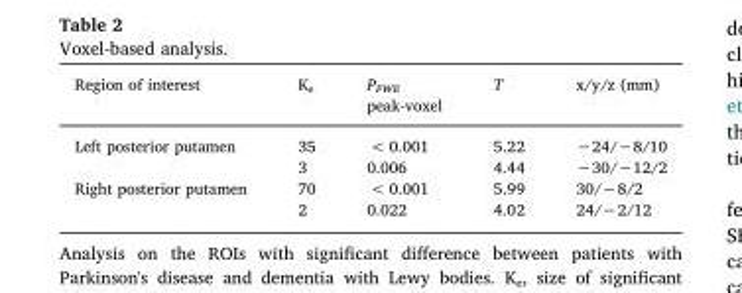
<table><thead><tr><td>Region of interest</td><td>K<sub>e</sub></td><td>P<sub>FWE</sub> peak-voxel</td><td>T</td><td>x/y/z (mm)</td></tr></thead><tbody><tr><td rowspan="2">Left posterior putamen</td><td>35</td><td>&lt; 0.001</td><td>5.22</td><td>−24/−8/10</td></tr><tr><td>3</td><td>0.006</td><td>4.44</td><td>−30/−12/2</td></tr><tr><td rowspan="2">Right posterior putamen</td><td>70</td><td>&lt; 0.001</td><td>5.99</td><td>30/−8/2</td></tr><tr><td>2</td><td>0.022</td><td>4.02</td><td>24/−2/12</td></tr></tbody></table>